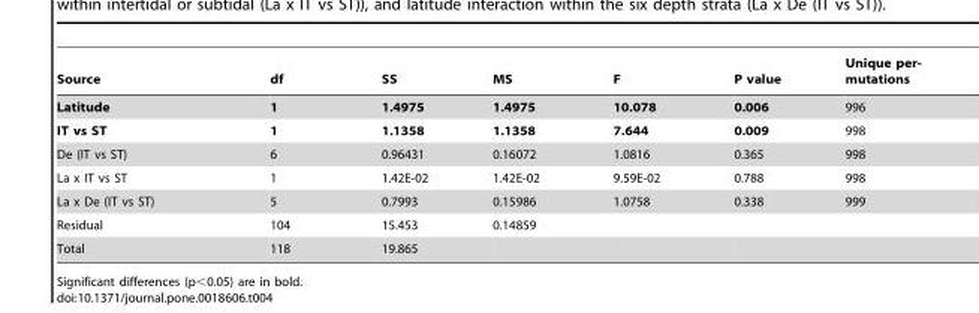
<table><thead><tr><td>Source</td><td>df</td><td>SS</td><td>MS</td><td>F</td><td>P value</td><td>Unique per- mutations</td></tr></thead><tbody><tr><td>Latitude</td><td>1</td><td>1.4975</td><td>1.4975</td><td>10.078</td><td>0.006</td><td>996</td></tr><tr><td>IT vs ST</td><td>1</td><td>1.1358</td><td>1.1358</td><td>7.644</td><td>0.009</td><td>998</td></tr><tr><td>De (IT vs ST)</td><td>6</td><td>0.96431</td><td>0.16072</td><td>1.0816</td><td>0.365</td><td>998</td></tr><tr><td>La x IT vs ST</td><td>1</td><td>1.42E-02</td><td>1.42E-02</td><td>9.59E-02</td><td>0.788</td><td>998</td></tr><tr><td>La x De (IT vs ST)</td><td>5</td><td>0.7993</td><td>0.15986</td><td>1.0758</td><td>0.338</td><td>999</td></tr><tr><td>Residual</td><td>104</td><td>15.453</td><td>0.14859</td><td></td><td></td><td></td></tr><tr><td>Total</td><td>118</td><td>19.865</td><td></td><td></td><td></td><td></td></tr></tbody></table>